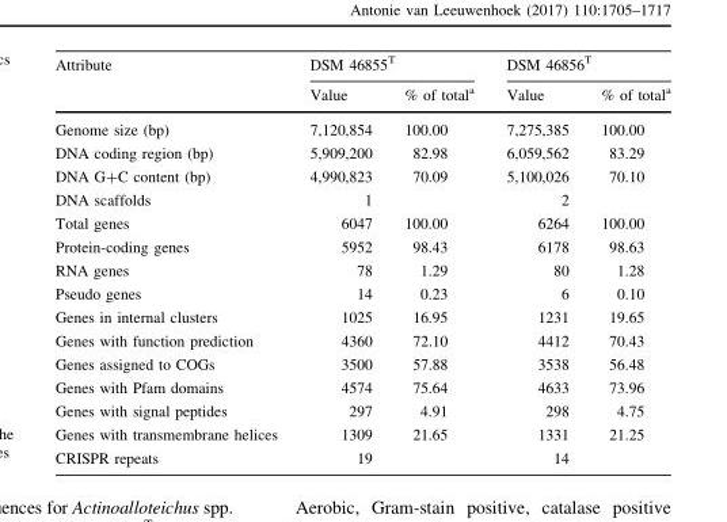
<table><thead><tr><td rowspan="2">Attribute</td><td colspan="2">DSM 46855<sup>T</sup></td><td colspan="2">DSM 46856<sup>T</sup></td></tr><tr><td>Value</td><td>% of total<sup>a</sup></td><td>Value</td><td>% of total<sup>a</sup></td></tr></thead><tbody><tr><td>Genome size (bp)</td><td>7,120,854</td><td>100.00</td><td>7,275,385</td><td>100.00</td></tr><tr><td>DNA coding region (bp)</td><td>5,909,200</td><td>82.98</td><td>6,059,562</td><td>83.29</td></tr><tr><td>DNA G+C content (bp)</td><td>4,990,823</td><td>70.09</td><td>5,100,026</td><td>70.10</td></tr><tr><td>DNA scaffolds</td><td>1</td><td></td><td>2</td><td></td></tr><tr><td>Total genes</td><td>6047</td><td>100.00</td><td>6264</td><td>100.00</td></tr><tr><td>Protein-coding genes</td><td>5952</td><td>98.43</td><td>6178</td><td>98.63</td></tr><tr><td>RNA genes</td><td>78</td><td>1.29</td><td>80</td><td>1.28</td></tr><tr><td>Pseudo genes</td><td>14</td><td>0.23</td><td>6</td><td>0.10</td></tr><tr><td>Genes in internal clusters</td><td>1025</td><td>16.95</td><td>1231</td><td>19.65</td></tr><tr><td>Genes with function prediction</td><td>4360</td><td>72.10</td><td>4412</td><td>70.43</td></tr><tr><td>Genes assigned to COGs</td><td>3500</td><td>57.88</td><td>3538</td><td>56.48</td></tr><tr><td>Genes with Pfam domains</td><td>4574</td><td>75.64</td><td>4633</td><td>73.96</td></tr><tr><td>Genes with signal peptides</td><td>297</td><td>4.91</td><td>298</td><td>4.75</td></tr><tr><td>Genes with transmembrane helices</td><td>1309</td><td>21.65</td><td>1331</td><td>21.25</td></tr><tr><td>CRISPR repeats</td><td>19</td><td></td><td>14</td><td></td></tr></tbody></table>